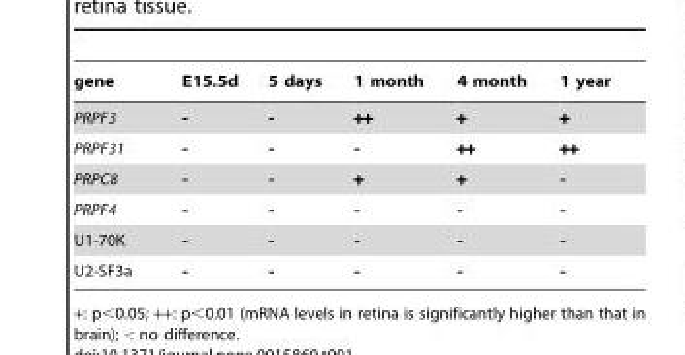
<table><thead><tr><td>gene</td><td>E15.5d</td><td>5 days</td><td>1 month</td><td>4 month</td><td>1 year</td></tr></thead><tbody><tr><td>PRPF3</td><td>-</td><td>-</td><td>++</td><td>+</td><td>+</td></tr><tr><td>PRPF31</td><td>-</td><td>-</td><td>-</td><td>++</td><td>++</td></tr><tr><td>PRPC8</td><td>-</td><td>-</td><td>+</td><td>+</td><td>-</td></tr><tr><td>PRPF4</td><td>-</td><td>-</td><td>-</td><td>-</td><td>-</td></tr><tr><td>U1-70K</td><td>-</td><td>-</td><td>-</td><td>-</td><td>-</td></tr><tr><td>U2-SF3a</td><td>-</td><td>-</td><td>-</td><td>-</td><td>-</td></tr></tbody></table>